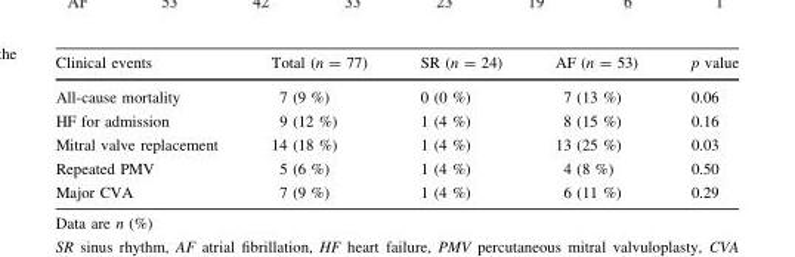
<table><thead><tr><td>Clinical events</td><td>Total (n = 77)</td><td>SR (n = 24)</td><td>AF (n = 53)</td><td>p value</td></tr></thead><tbody><tr><td>All-cause mortality</td><td>7 (9 %)</td><td>0 (0 %)</td><td>7 (13 %)</td><td>0.06</td></tr><tr><td>HF for admission</td><td>9 (12 %)</td><td>1 (4 %)</td><td>8 (15 %)</td><td>0.16</td></tr><tr><td>Mitral valve replacement</td><td>14 (18 %)</td><td>1 (4 %)</td><td>13 (25 %)</td><td>0.03</td></tr><tr><td>Repeated PMV</td><td>5 (6 %)</td><td>1 (4 %)</td><td>4 (8 %)</td><td>0.50</td></tr><tr><td>Major CVA</td><td>7 (9 %)</td><td>1 (4 %)</td><td>6 (11 %)</td><td>0.29</td></tr></tbody></table>